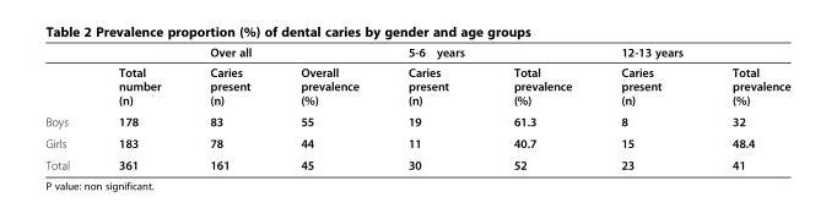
<table><thead><tr><td></td><td></td><td>Over all</td><td></td><td>5-6 years</td><td></td><td>12-13 years</td><td></td></tr></thead><tbody><tr><td></td><td>Total number (n)</td><td>Caries present (n)</td><td>Overall prevalence (%)</td><td>Caries present (n)</td><td>Total prevalence (%)</td><td>Caries present (n)</td><td>Total prevalence (%)</td></tr><tr><td>Boys</td><td>178</td><td>83</td><td>55</td><td>19</td><td>61.3</td><td>8</td><td>32</td></tr><tr><td>Girls</td><td>183</td><td>78</td><td>44</td><td>11</td><td>40.7</td><td>15</td><td>48.4</td></tr><tr><td>Total</td><td>361</td><td>161</td><td>45</td><td>30</td><td>52</td><td>23</td><td>41</td></tr></tbody></table>